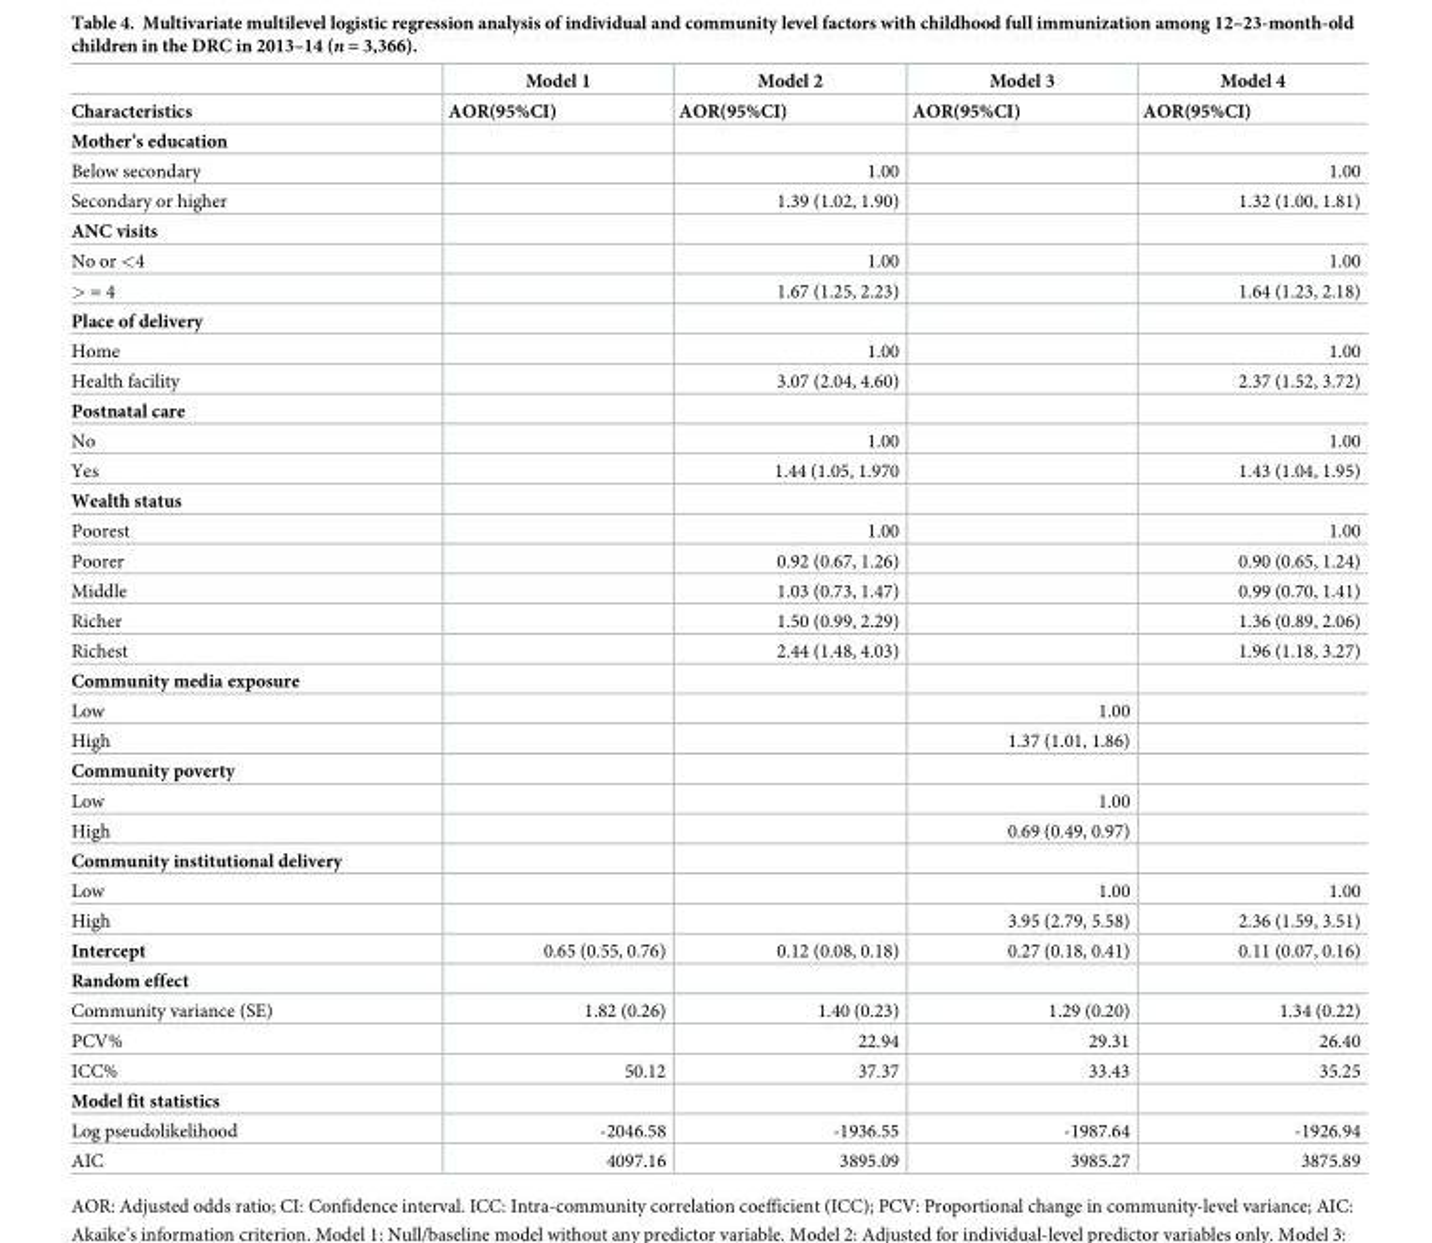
<table><thead><tr><td rowspan="2">Characteristics</td><td rowspan="2">Model 1 AOR(95%CI)</td><td rowspan="2">Model 2 AOR(95%CI)</td><td rowspan="2">Model 3 AOR(95%CI)</td><td rowspan="2">Model 4 AOR(95%CI)</td></tr><tr></tr></thead><tbody><tr><td colspan="5">Mother’s education</td></tr><tr><td>Below secondary</td><td></td><td>1.00</td><td></td><td>1.00</td></tr><tr><td>Secondary or higher</td><td></td><td>1.39 (1.02, 1.90)</td><td></td><td>1.32 (1.00, 1.81)</td></tr><tr><td colspan="5">ANC visits</td></tr><tr><td>No or &lt;4</td><td></td><td>1.00</td><td></td><td>1.00</td></tr><tr><td>&gt; = 4</td><td></td><td>1.67 (1.25, 2.23)</td><td></td><td>1.64 (1.23, 2.18)</td></tr><tr><td colspan="5">Place of delivery</td></tr><tr><td>Home</td><td></td><td>1.00</td><td></td><td>1.00</td></tr><tr><td>Health facility</td><td></td><td>3.07 (2.04, 4.60)</td><td></td><td>2.37 (1.52, 3.72)</td></tr><tr><td colspan="5">Postnatal care</td></tr><tr><td>No</td><td></td><td>1.00</td><td></td><td>1.00</td></tr><tr><td>Yes</td><td></td><td>1.44 (1.05, 1.970</td><td></td><td>1.43 (1.04, 1.95)</td></tr><tr><td colspan="5">Wealth status</td></tr><tr><td>Poorest</td><td></td><td>1.00</td><td></td><td>1.00</td></tr><tr><td>Poorer</td><td></td><td>0.92 (0.67, 1.26)</td><td></td><td>0.90 (0.65, 1.24)</td></tr><tr><td>Middle</td><td></td><td>1.03 (0.73, 1.47)</td><td></td><td>0.99 (0.70, 1.41)</td></tr><tr><td>Richer</td><td></td><td>1.50 (0.99, 2.29)</td><td></td><td>1.36 (0.89, 2.06)</td></tr><tr><td>Richest</td><td></td><td>2.44 (1.48, 4.03)</td><td></td><td>1.96 (1.18, 3.27)</td></tr><tr><td colspan="5">Community media exposure</td></tr><tr><td>Low</td><td></td><td></td><td>1.00</td><td></td></tr><tr><td>High</td><td></td><td></td><td>1.37 (1.01, 1.86)</td><td></td></tr><tr><td colspan="5">Community poverty</td></tr><tr><td>Low</td><td></td><td></td><td>1.00</td><td></td></tr><tr><td>High</td><td></td><td></td><td>0.69 (0.49, 0.97)</td><td></td></tr><tr><td colspan="5">Community institutional delivery</td></tr><tr><td>Low</td><td></td><td></td><td>1.00</td><td>1.00</td></tr><tr><td>High</td><td></td><td></td><td>3.95 (2.79, 5.58)</td><td>2.36 (1.59, 3.51)</td></tr><tr><td>Intercept</td><td>0.65 (0.55, 0.76)</td><td>0.12 (0.08, 0.18)</td><td>0.27 (0.18, 0.41)</td><td>0.11 (0.07, 0.16)</td></tr><tr><td colspan="5">Random effect</td></tr><tr><td>Community variance (SE)</td><td>1.82 (0.26)</td><td>1.40 (0.23)</td><td>1.29 (0.20)</td><td>1.34 (0.22)</td></tr><tr><td>PCV%</td><td></td><td>22.94</td><td>29.31</td><td>26.40</td></tr><tr><td>ICC%</td><td>50.12</td><td>37.37</td><td>33.43</td><td>35.25</td></tr><tr><td colspan="5">Model fit statistics</td></tr><tr><td>Log pseudolikelihood</td><td>-2046.58</td><td>-1936.55</td><td>-1987.64</td><td>-1926.94</td></tr><tr><td>AIC</td><td>4097.16</td><td>3895.09</td><td>3985.27</td><td>3875.89</td></tr></tbody></table>